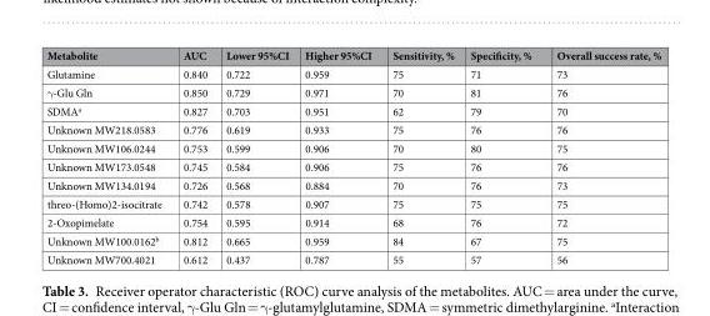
<table><thead><tr><td>Metabolite</td><td>AUC</td><td>Lower 95%CI</td><td>Higher 95%CI</td><td>Sensitivity, %</td><td>Specificity, %</td><td>Overall success rate, %</td></tr></thead><tbody><tr><td>Glutamine</td><td>0.840</td><td>0.722</td><td>0.959</td><td>75</td><td>71</td><td>73</td></tr><tr><td>γ-Glu Gln</td><td>0.850</td><td>0.729</td><td>0.971</td><td>70</td><td>81</td><td>76</td></tr><tr><td>SDMA<sup>a</sup></td><td>0.827</td><td>0.703</td><td>0.951</td><td>62</td><td>79</td><td>70</td></tr><tr><td>Unknown MW218.0583</td><td>0.776</td><td>0.619</td><td>0.933</td><td>75</td><td>76</td><td>76</td></tr><tr><td>Unknown MW106.0244</td><td>0.753</td><td>0.599</td><td>0.906</td><td>70</td><td>80</td><td>75</td></tr><tr><td>Unknown MW173.0548</td><td>0.745</td><td>0.584</td><td>0.906</td><td>75</td><td>76</td><td>76</td></tr><tr><td>Unknown MW134.0194</td><td>0.726</td><td>0.568</td><td>0.884</td><td>70</td><td>76</td><td>73</td></tr><tr><td>threo-(Homo)2-isocitrate</td><td>0.742</td><td>0.578</td><td>0.907</td><td>75</td><td>75</td><td>75</td></tr><tr><td>2-Oxopimelate</td><td>0.754</td><td>0.595</td><td>0.914</td><td>68</td><td>76</td><td>72</td></tr><tr><td>Unknown MW100.0162<sup>b</sup></td><td>0.812</td><td>0.665</td><td>0.959</td><td>84</td><td>67</td><td>75</td></tr><tr><td>Unknown MW700.4021</td><td>0.612</td><td>0.437</td><td>0.787</td><td>55</td><td>57</td><td>56</td></tr></tbody></table>